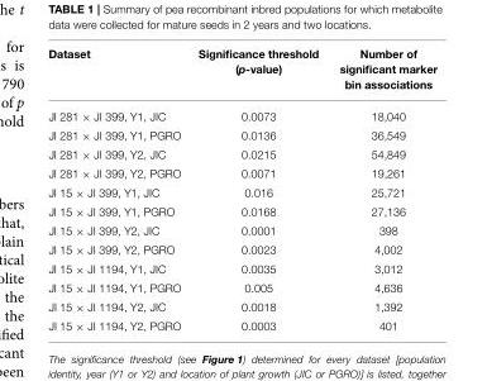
<table><thead><tr><td>Dataset</td><td>Significance threshold (p-value)</td><td>Number of significant marker bin associations</td></tr></thead><tbody><tr><td>JI 281 × JI 399, Y1, JIC</td><td>0.0073</td><td>18,040</td></tr><tr><td>JI 281 × JI 399, Y1, PGRO</td><td>0.0136</td><td>36,549</td></tr><tr><td>JI 281 × JI 399, Y2, JIC</td><td>0.0215</td><td>54,849</td></tr><tr><td>JI 281 × JI 399, Y2, PGRO</td><td>0.0071</td><td>19,261</td></tr><tr><td>JI 15 × JI 399, Y1, JIC</td><td>0.016</td><td>25,721</td></tr><tr><td>JI 15 × JI 399, Y1, PGRO</td><td>0.0168</td><td>27,136</td></tr><tr><td>JI 15 × JI 399, Y2, JIC</td><td>0.0001</td><td>398</td></tr><tr><td>JI 15 × JI 399, Y2, PGRO</td><td>0.0023</td><td>4,002</td></tr><tr><td>JI 15 × JI 1194, Y1, JIC</td><td>0.0035</td><td>3,012</td></tr><tr><td>JI 15 × JI 1194, Y1, PGRO</td><td>0.005</td><td>4,636</td></tr><tr><td>JI 15 × JI 1194, Y2, JIC</td><td>0.0018</td><td>1,392</td></tr><tr><td>JI 15 × JI 1194, Y2, PGRO</td><td>0.0003</td><td>401</td></tr></tbody></table>